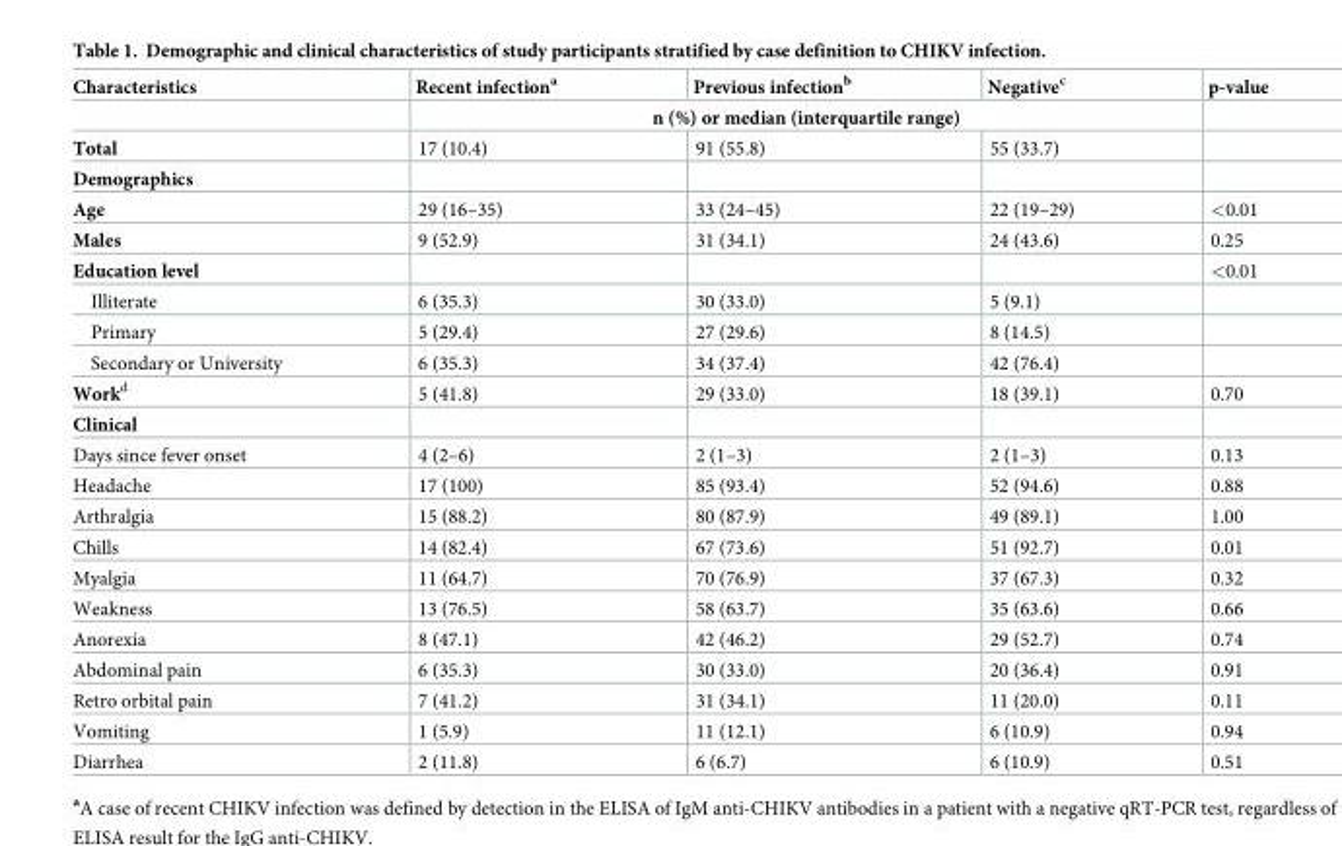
<table><thead><tr><td rowspan="2">Characteristics</td><td>Recent infection<sup>a</sup></td><td>Previous infection<sup>b</sup></td><td>Negative<sup>c</sup></td><td rowspan="2">p-value</td></tr><tr><td colspan="3">n (%) or median (interquartile range)</td></tr></thead><tbody><tr><td>Total</td><td>17 (10.4)</td><td>91 (55.8)</td><td>55 (33.7)</td><td></td></tr><tr><td colspan="5">Demographics</td></tr><tr><td>Age</td><td>29 (16–35)</td><td>33 (24–45)</td><td>22 (19–29)</td><td>&lt;0.01</td></tr><tr><td>Males</td><td>9 (52.9)</td><td>31 (34.1)</td><td>24 (43.6)</td><td>0.25</td></tr><tr><td>Education level</td><td></td><td></td><td></td><td>&lt;0.01</td></tr><tr><td>Illiterate</td><td>6 (35.3)</td><td>30 (33.0)</td><td>5 (9.1)</td><td></td></tr><tr><td>Primary</td><td>5 (29.4)</td><td>27 (29.6)</td><td>8 (14.5)</td><td></td></tr><tr><td>Secondary or University</td><td>6 (35.3)</td><td>34 (37.4)</td><td>42 (76.4)</td><td></td></tr><tr><td>Work<sup>d</sup></td><td>5 (41.8)</td><td>29 (33.0)</td><td>18 (39.1)</td><td>0.70</td></tr><tr><td colspan="5">Clinical</td></tr><tr><td>Days since fever onset</td><td>4 (2–6)</td><td>2 (1–3)</td><td>2 (1–3)</td><td>0.13</td></tr><tr><td>Headache</td><td>17 (100)</td><td>85 (93.4)</td><td>52 (94.6)</td><td>0.88</td></tr><tr><td>Arthralgia</td><td>15 (88.2)</td><td>80 (87.9)</td><td>49 (89.1)</td><td>1.00</td></tr><tr><td>Chills</td><td>14 (82.4)</td><td>67 (73.6)</td><td>51 (92.7)</td><td>0.01</td></tr><tr><td>Myalgia</td><td>11 (64.7)</td><td>70 (76.9)</td><td>37 (67.3)</td><td>0.32</td></tr><tr><td>Weakness</td><td>13 (76.5)</td><td>58 (63.7)</td><td>35 (63.6)</td><td>0.66</td></tr><tr><td>Anorexia</td><td>8 (47.1)</td><td>42 (46.2)</td><td>29 (52.7)</td><td>0.74</td></tr><tr><td>Abdominal pain</td><td>6 (35.3)</td><td>30 (33.0)</td><td>20 (36.4)</td><td>0.91</td></tr><tr><td>Retro orbital pain</td><td>7 (41.2)</td><td>31 (34.1)</td><td>11 (20.0)</td><td>0.11</td></tr><tr><td>Vomiting</td><td>1 (5.9)</td><td>11 (12.1)</td><td>6 (10.9)</td><td>0.94</td></tr><tr><td>Diarrhea</td><td>2 (11.8)</td><td>6 (6.7)</td><td>6 (10.9)</td><td>0.51</td></tr></tbody></table>